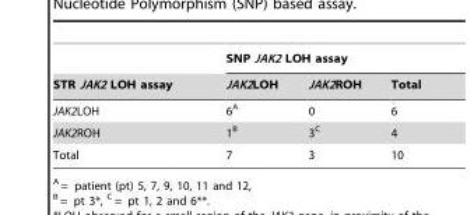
<table><thead><tr><td rowspan="2">STR JAK2 LOH assay</td><td colspan="3">SNP JAK2 LOH assay</td></tr><tr><td>JAK2LOH</td><td>JAK2ROH</td><td>Total</td></tr></thead><tbody><tr><td>JAK2LOH</td><td>6<sup>A</sup></td><td>0</td><td>6</td></tr><tr><td>JAK2ROH</td><td>1<sup>B</sup></td><td>3<sup>C</sup></td><td>4</td></tr><tr><td>Total</td><td>7</td><td>3</td><td>10</td></tr></tbody></table>